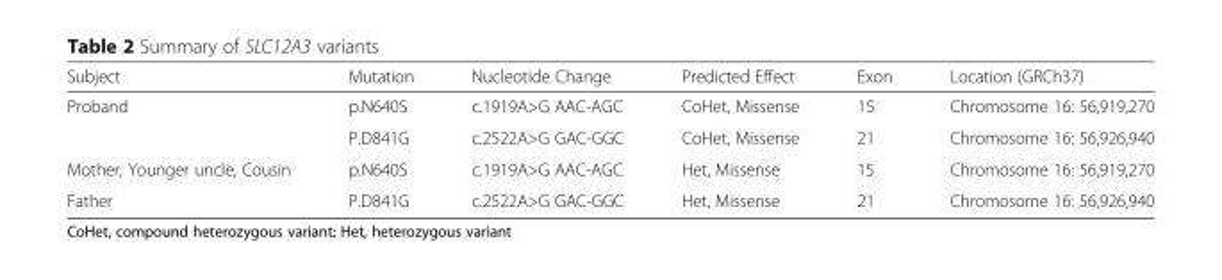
<table><thead><tr><td>Subject</td><td>Mutation</td><td>Nucleotide Change</td><td>Predicted Effect</td><td>Exon</td><td>Location (GRCh37)</td></tr></thead><tbody><tr><td rowspan="2">Proband</td><td>p.N640S</td><td>c.1919A&gt;G AAC-AGC</td><td>CoHet, Missense</td><td>15</td><td>Chromosome 16: 56,919,270</td></tr><tr><td>P.D841G</td><td>c.2522A&gt;G GAC-GGC</td><td>CoHet, Missense</td><td>21</td><td>Chromosome 16: 56,926,940</td></tr><tr><td>Mother, Younger uncle, Cousin</td><td>p.N640S</td><td>c.1919A&gt;G AAC-AGC</td><td>Het, Missense</td><td>15</td><td>Chromosome 16: 56,919,270</td></tr><tr><td>Father</td><td>P.D841G</td><td>c.2522A&gt;G GAC-GGC</td><td>Het, Missense</td><td>21</td><td>Chromosome 16: 56,926,940</td></tr></tbody></table>